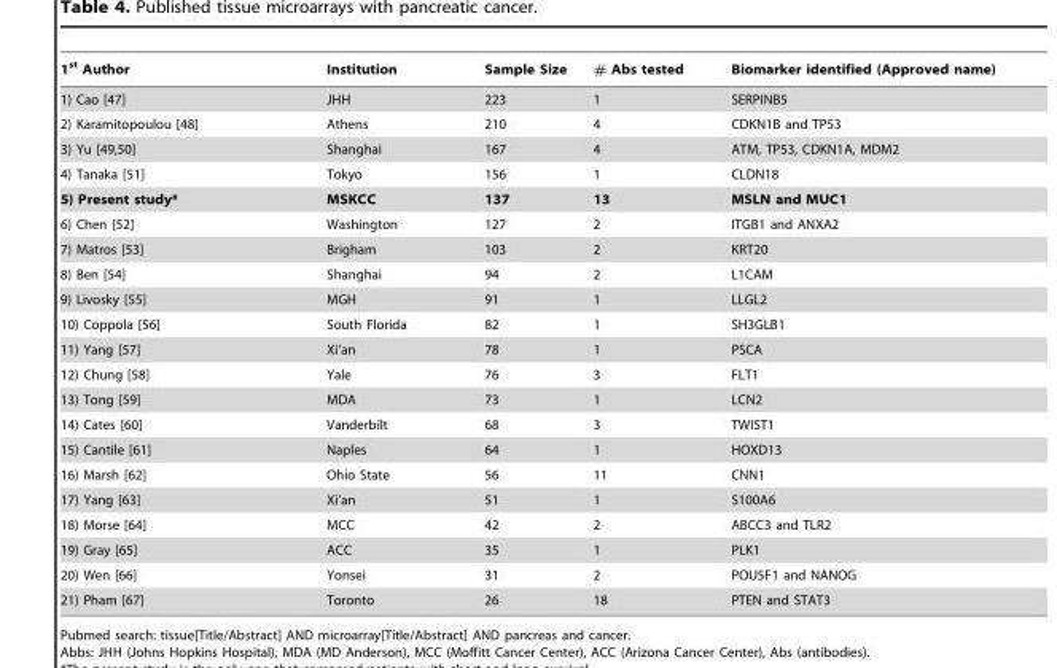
<table><thead><tr><td>1<sup>st</sup> Author</td><td>Institution</td><td>Sample Size</td><td># Abs tested</td><td>Biomarker identified (Approved name)</td></tr></thead><tbody><tr><td>1) Cao [47]</td><td>JHH</td><td>223</td><td>1</td><td>SERPINB5</td></tr><tr><td>2) Karamitopoulou [48]</td><td>Athens</td><td>210</td><td>4</td><td>CDKN1B and TP53</td></tr><tr><td>3) Yu [49,50]</td><td>Shanghai</td><td>167</td><td>4</td><td>ATM, TP53, CDKN1A, MDM2</td></tr><tr><td>4) Tanaka [51]</td><td>Tokyo</td><td>156</td><td>1</td><td>CLDN18</td></tr><tr><td>5) Present study*</td><td>MSKCC</td><td>137</td><td>13</td><td>MSLN and MUC1</td></tr><tr><td>6) Chen [52]</td><td>Washington</td><td>127</td><td>2</td><td>ITGB1 and ANXA2</td></tr><tr><td>7) Matros [53]</td><td>Brigham</td><td>103</td><td>2</td><td>KRT20</td></tr><tr><td>8) Ben [54]</td><td>Shanghai</td><td>94</td><td>2</td><td>L1CAM</td></tr><tr><td>9) Livosky [55]</td><td>MGH</td><td>91</td><td>1</td><td>LLGL2</td></tr><tr><td>10) Coppola [56]</td><td>South Florida</td><td>82</td><td>1</td><td>SH3GLB1</td></tr><tr><td>11) Yang [57]</td><td>Xi’an</td><td>78</td><td>1</td><td>PSCA</td></tr><tr><td>12) Chung [58]</td><td>Yale</td><td>76</td><td>3</td><td>FLT1</td></tr><tr><td>13) Tong [59]</td><td>MDA</td><td>73</td><td>1</td><td>LCN2</td></tr><tr><td>14) Cates [60]</td><td>Vanderbilt</td><td>68</td><td>3</td><td>TWIST1</td></tr><tr><td>15) Cantile [61]</td><td>Naples</td><td>64</td><td>1</td><td>HOXD13</td></tr><tr><td>16) Marsh [62]</td><td>Ohio State</td><td>56</td><td>11</td><td>CNN1</td></tr><tr><td>17) Yang [63]</td><td>Xi’an</td><td>51</td><td>1</td><td>S100A6</td></tr><tr><td>18) Morse [64]</td><td>MCC</td><td>42</td><td>2</td><td>ABCC3 and TLR2</td></tr><tr><td>19) Gray [65]</td><td>ACC</td><td>35</td><td>1</td><td>PLK1</td></tr><tr><td>20) Wen [66]</td><td>Yonsei</td><td>31</td><td>2</td><td>POU5F1 and NANOG</td></tr><tr><td>21) Pham [67]</td><td>Toronto</td><td>26</td><td>18</td><td>PTEN and STAT3</td></tr></tbody></table>